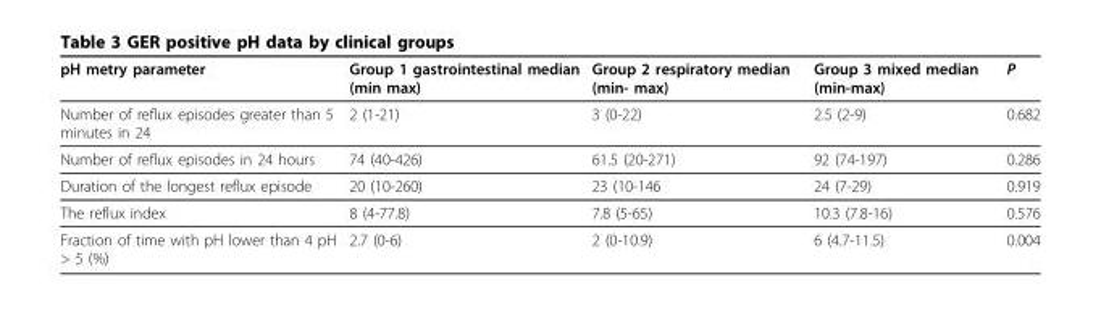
<table><thead><tr><td>pH metry parameter</td><td>Group 1 gastrointestinal median (min max)</td><td>Group 2 respiratory median (min- max)</td><td>Group 3 mixed median (min-max)</td><td>P</td></tr></thead><tbody><tr><td>Number of reflux episodes greater than 5 minutes in 24</td><td>2 (1-21)</td><td>3 (0-22)</td><td>2.5 (2-9)</td><td>0.682</td></tr><tr><td>Number of reflux episodes in 24 hours</td><td>74 (40-426)</td><td>61.5 (20-271)</td><td>92 (74-197)</td><td>0.286</td></tr><tr><td>Duration of the longest reflux episode</td><td>20 (10-260)</td><td>23 (10-146</td><td>24 (7-29)</td><td>0.919</td></tr><tr><td>The reflux index</td><td>8 (4-77.8)</td><td>7.8 (5-65)</td><td>10.3 (7.8-16)</td><td>0.576</td></tr><tr><td>Fraction of time with pH lower than 4 pH &gt; 5 (%)</td><td>2.7 (0-6)</td><td>2 (0-10.9)</td><td>6 (4.7-11.5)</td><td>0.004</td></tr></tbody></table>